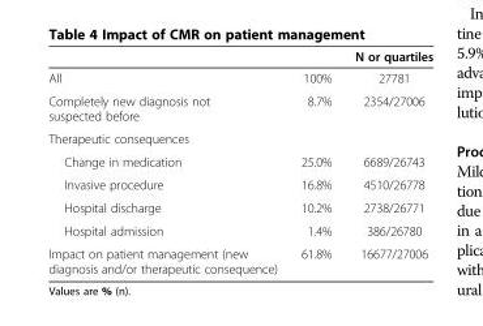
<table><thead><tr><td></td><td></td><td>N or quartiles</td></tr></thead><tbody><tr><td>All</td><td>100%</td><td>27781</td></tr><tr><td>Completely new diagnosis not suspected before</td><td>8.7%</td><td>2354/27006</td></tr><tr><td colspan="3">Therapeutic consequences</td></tr><tr><td>Change in medication</td><td>25.0%</td><td>6689/26743</td></tr><tr><td>Invasive procedure</td><td>16.8%</td><td>4510/26778</td></tr><tr><td>Hospital discharge</td><td>10.2%</td><td>2738/26771</td></tr><tr><td>Hospital admission</td><td>1.4%</td><td>386/26780</td></tr><tr><td>Impact on patient management (new diagnosis and/or therapeutic consequence)</td><td>61.8%</td><td>16677/27006</td></tr></tbody></table>